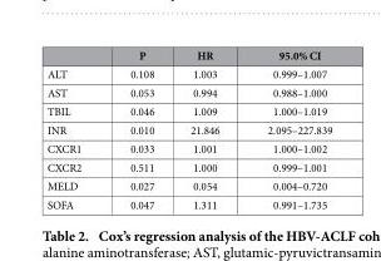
<table><thead><tr><td></td><td>P</td><td>HR</td><td>95.0% CI</td></tr></thead><tbody><tr><td>ALT</td><td>0.108</td><td>1.003</td><td>0.999–1.007</td></tr><tr><td>AST</td><td>0.053</td><td>0.994</td><td>0.988–1.000</td></tr><tr><td>TBIL</td><td>0.046</td><td>1.009</td><td>1.000–1.019</td></tr><tr><td>INR</td><td>0.010</td><td>21.846</td><td>2.095–227.839</td></tr><tr><td>CXCR1</td><td>0.033</td><td>1.001</td><td>1.000–1.002</td></tr><tr><td>CXCR2</td><td>0.511</td><td>1.000</td><td>0.999–1.001</td></tr><tr><td>MELD</td><td>0.027</td><td>0.054</td><td>0.004–0.720</td></tr><tr><td>SOFA</td><td>0.047</td><td>1.311</td><td>0.991–1.735</td></tr></tbody></table>